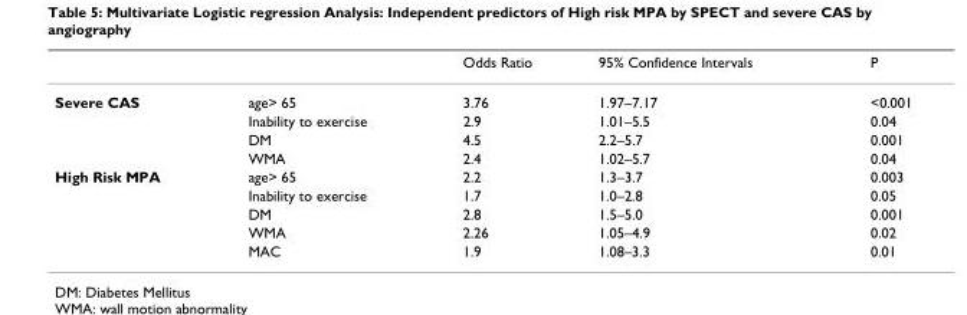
<table><thead><tr><td></td><td></td><td>Odds Ratio</td><td>95% Confidence Intervals</td><td>P</td></tr></thead><tbody><tr><td rowspan="4">Severe CAS</td><td>age&gt; 65</td><td>3.76</td><td>1.97–7.17</td><td>&lt;0.001</td></tr><tr><td>Inability to exercise</td><td>2.9</td><td>1.01–5.5</td><td>0.04</td></tr><tr><td>DM</td><td>4.5</td><td>2.2–5.7</td><td>0.001</td></tr><tr><td>WMA</td><td>2.4</td><td>1.02–5.7</td><td>0.04</td></tr><tr><td rowspan="5">High Risk MPA</td><td>age&gt; 65</td><td>2.2</td><td>1.3–3.7</td><td>0.003</td></tr><tr><td>Inability to exercise</td><td>1.7</td><td>1.0–2.8</td><td>0.05</td></tr><tr><td>DM</td><td>2.8</td><td>1.5–5.0</td><td>0.001</td></tr><tr><td>WMA</td><td>2.26</td><td>1.05–4.9</td><td>0.02</td></tr><tr><td>MAC</td><td>1.9</td><td>1.08–3.3</td><td>0.01</td></tr></tbody></table>